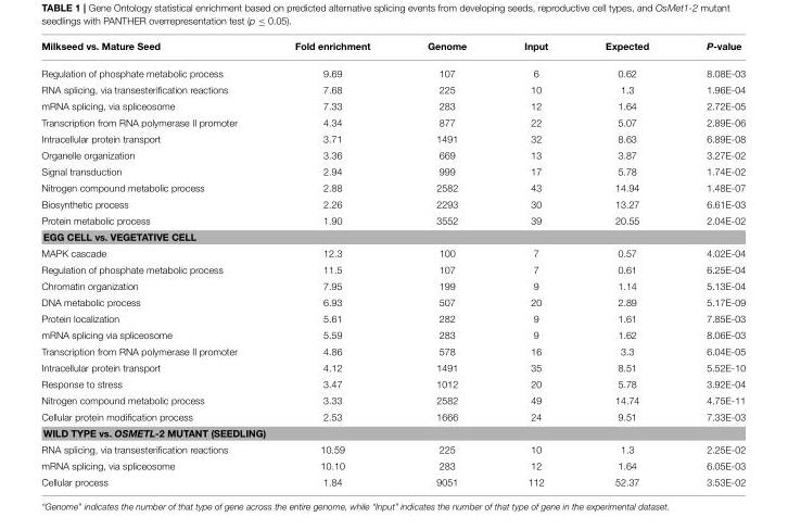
<table><thead><tr><td>Milkseed vs. Mature Seed</td><td>Fold enrichment</td><td>Genome</td><td>Input</td><td>Expected</td><td>P-value</td></tr></thead><tbody><tr><td>Regulation of phosphate metabolic process</td><td>9.69</td><td>107</td><td>6</td><td>0.62</td><td>8.08E-03</td></tr><tr><td>RNA splicing, via transesterification reactions</td><td>7.68</td><td>225</td><td>10</td><td>1.3</td><td>1.96E-04</td></tr><tr><td>mRNA splicing, via spliceosome</td><td>7.33</td><td>283</td><td>12</td><td>1.64</td><td>2.72E-05</td></tr><tr><td>Transcription from RNA polymerase II promoter</td><td>4.34</td><td>877</td><td>22</td><td>5.07</td><td>2.89E-06</td></tr><tr><td>Intracellular protein transport</td><td>3.71</td><td>1491</td><td>32</td><td>8.63</td><td>6.89E-08</td></tr><tr><td>Organelle organization</td><td>3.36</td><td>669</td><td>13</td><td>3.87</td><td>3.27E-02</td></tr><tr><td>Signal transduction</td><td>2.94</td><td>999</td><td>17</td><td>5.78</td><td>1.74E-02</td></tr><tr><td>Nitrogen compound metabolic process</td><td>2.88</td><td>2582</td><td>43</td><td>14.94</td><td>1.48E-07</td></tr><tr><td>Biosynthetic process</td><td>2.26</td><td>2293</td><td>30</td><td>13.27</td><td>6.61E-03</td></tr><tr><td>Protein metabolic process</td><td>1.90</td><td>3552</td><td>39</td><td>20.55</td><td>2.04E-02</td></tr><tr><td colspan="6">EGG CELL vs. VEGETATIVE CELL</td></tr><tr><td>MAPK cascade</td><td>12.3</td><td>100</td><td>7</td><td>0.57</td><td>4.02E-04</td></tr><tr><td>Regulation of phosphate metabolic process</td><td>11.5</td><td>107</td><td>7</td><td>0.61</td><td>6.25E-04</td></tr><tr><td>Chromatin organization</td><td>7.95</td><td>199</td><td>9</td><td>1.14</td><td>5.13E-04</td></tr><tr><td>DNA metabolic process</td><td>6.93</td><td>507</td><td>20</td><td>2.89</td><td>5.17E-09</td></tr><tr><td>Protein localization</td><td>5.61</td><td>282</td><td>9</td><td>1.61</td><td>7.85E-03</td></tr><tr><td>mRNA splicing via spliceosome</td><td>5.59</td><td>283</td><td>9</td><td>1.62</td><td>8.06E-03</td></tr><tr><td>Transcription from RNA polymerase II promoter</td><td>4.86</td><td>578</td><td>16</td><td>3.3</td><td>6.04E-05</td></tr><tr><td>Intracellular protein transport</td><td>4.12</td><td>1491</td><td>35</td><td>8.51</td><td>5.52E-10</td></tr><tr><td>Response to stress</td><td>3.47</td><td>1012</td><td>20</td><td>5.78</td><td>3.92E-04</td></tr><tr><td>Nitrogen compound metabolic process</td><td>3.33</td><td>2582</td><td>49</td><td>14.74</td><td>4.75E-11</td></tr><tr><td>Cellular protein modification process</td><td>2.53</td><td>1666</td><td>24</td><td>9.51</td><td>7.33E-03</td></tr><tr><td colspan="6">WILD TYPE vs. OSMETL-2 MUTANT (SEEDLING)</td></tr><tr><td>RNA splicing, via transesterification reactions</td><td>10.59</td><td>225</td><td>10</td><td>1.3</td><td>2.25E-02</td></tr><tr><td>mRNA splicing, via spliceosome</td><td>10.10</td><td>283</td><td>12</td><td>1.64</td><td>6.05E-03</td></tr><tr><td>Cellular process</td><td>1.84</td><td>9051</td><td>112</td><td>52.37</td><td>3.53E-02</td></tr></tbody></table>